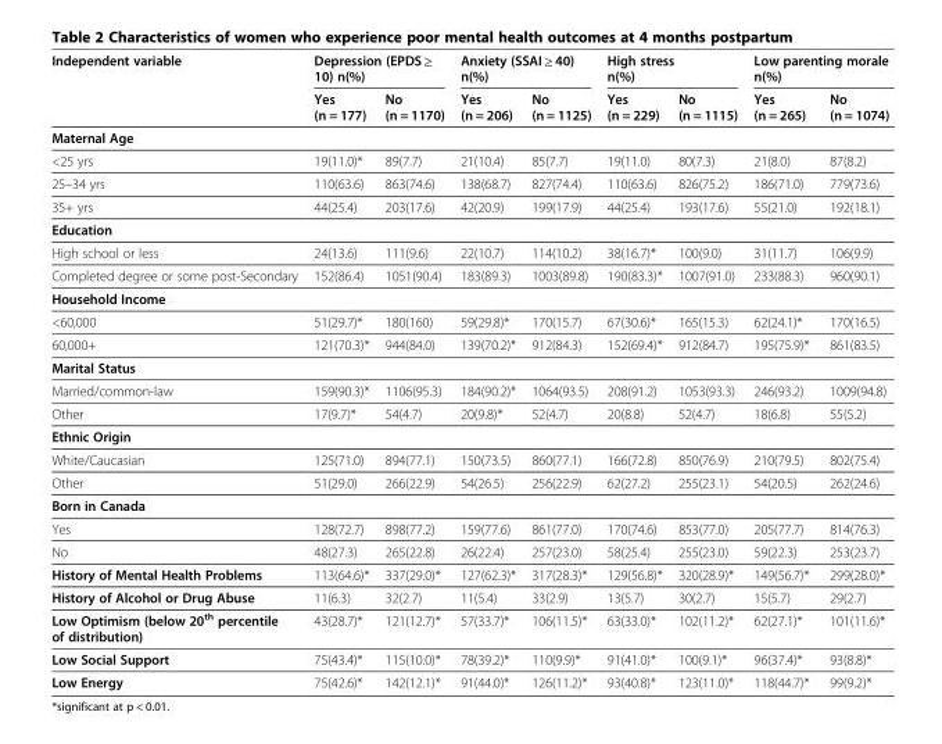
<table><thead><tr><td rowspan="2">Independent variable</td><td colspan="2">Depression (EPDS ≥ 10) n(%)</td><td colspan="2">Anxiety (SSAI ≥ 40) n(%)</td><td colspan="2">High stress n(%)</td><td colspan="2">Low parenting morale n(%)</td></tr><tr><td>Yes (n = 177)</td><td>No (n = 1170)</td><td>Yes (n = 206)</td><td>No (n = 1125)</td><td>Yes (n = 229)</td><td>No (n = 1115)</td><td>Yes (n = 265)</td><td>No (n = 1074)</td></tr></thead><tbody><tr><td colspan="9">Maternal Age</td></tr><tr><td>&lt;25 yrs</td><td>19(11.0)*</td><td>89(7.7)</td><td>21(10.4)</td><td>85(7.7)</td><td>19(11.0)</td><td>80(7.3)</td><td>21(8.0)</td><td>87(8.2)</td></tr><tr><td>25–34 yrs</td><td>110(63.6)</td><td>863(74.6)</td><td>138(68.7)</td><td>827(74.4)</td><td>110(63.6)</td><td>826(75.2)</td><td>186(71.0)</td><td>779(73.6)</td></tr><tr><td>35+ yrs</td><td>44(25.4)</td><td>203(17.6)</td><td>42(20.9)</td><td>199(17.9)</td><td>44(25.4)</td><td>193(17.6)</td><td>55(21.0)</td><td>192(18.1)</td></tr><tr><td colspan="9">Education</td></tr><tr><td>High school or less</td><td>24(13.6)</td><td>111(9.6)</td><td>22(10.7)</td><td>114(10.2)</td><td>38(16.7)*</td><td>100(9.0)</td><td>31(11.7)</td><td>106(9.9)</td></tr><tr><td>Completed degree or some post-Secondary</td><td>152(86.4)</td><td>1051(90.4)</td><td>183(89.3)</td><td>1003(89.8)</td><td>190(83.3)*</td><td>1007(91.0)</td><td>233(88.3)</td><td>960(90.1)</td></tr><tr><td colspan="9">Household Income</td></tr><tr><td>&lt;60,000</td><td>51(29.7)*</td><td>180(160)</td><td>59(29.8)*</td><td>170(15.7)</td><td>67(30.6)*</td><td>165(15.3)</td><td>62(24.1)*</td><td>170(16.5)</td></tr><tr><td>60,000+</td><td>121(70.3)*</td><td>944(84.0)</td><td>139(70.2)*</td><td>912(84.3)</td><td>152(69.4)*</td><td>912(84.7)</td><td>195(75.9)*</td><td>861(83.5)</td></tr><tr><td colspan="9">Marital Status</td></tr><tr><td>Married/common-law</td><td>159(90.3)*</td><td>1106(95.3)</td><td>184(90.2)*</td><td>1064(93.5)</td><td>208(91.2)</td><td>1053(93.3)</td><td>246(93.2)</td><td>1009(94.8)</td></tr><tr><td>Other</td><td>17(9.7)*</td><td>54(4.7)</td><td>20(9.8)*</td><td>52(4.7)</td><td>20(8.8)</td><td>52(4.7)</td><td>18(6.8)</td><td>55(5.2)</td></tr><tr><td colspan="9">Ethnic Origin</td></tr><tr><td>White/Caucasian</td><td>125(71.0)</td><td>894(77.1)</td><td>150(73.5)</td><td>860(77.1)</td><td>166(72.8)</td><td>850(76.9)</td><td>210(79.5)</td><td>802(75.4)</td></tr><tr><td>Other</td><td>51(29.0)</td><td>266(22.9)</td><td>54(26.5)</td><td>256(22.9)</td><td>62(27.2)</td><td>255(23.1)</td><td>54(20.5)</td><td>262(24.6)</td></tr><tr><td colspan="9">Born in Canada</td></tr><tr><td>Yes</td><td>128(72.7)</td><td>898(77.2)</td><td>159(77.6)</td><td>861(77.0)</td><td>170(74.6)</td><td>853(77.0)</td><td>205(77.7)</td><td>814(76.3)</td></tr><tr><td>No</td><td>48(27.3)</td><td>265(22.8)</td><td>26(22.4)</td><td>257(23.0)</td><td>58(25.4)</td><td>255(23.0)</td><td>59(22.3)</td><td>253(23.7)</td></tr><tr><td>History of Mental Health Problems</td><td>113(64.6)*</td><td>337(29.0)*</td><td>127(62.3)*</td><td>317(28.3)*</td><td>129(56.8)*</td><td>320(28.9)*</td><td>149(56.7)*</td><td>299(28.0)*</td></tr><tr><td>History of Alcohol or Drug Abuse</td><td>11(6.3)</td><td>32(2.7)</td><td>11(5.4)</td><td>33(2.9)</td><td>13(5.7)</td><td>30(2.7)</td><td>15(5.7)</td><td>29(2.7)</td></tr><tr><td>Low Optimism (below 20<sup>th</sup> percentile of distribution)</td><td>43(28.7)*</td><td>121(12.7)*</td><td>57(33.7)*</td><td>106(11.5)*</td><td>63(33.0)*</td><td>102(11.2)*</td><td>62(27.1)*</td><td>101(11.6)*</td></tr><tr><td>Low Social Support</td><td>75(43.4)*</td><td>115(10.0)*</td><td>78(39.2)*</td><td>110(9.9)*</td><td>91(41.0)*</td><td>100(9.1)*</td><td>96(37.4)*</td><td>93(8.8)*</td></tr><tr><td>Low Energy</td><td>75(42.6)*</td><td>142(12.1)*</td><td>91(44.0)*</td><td>126(11.2)*</td><td>93(40.8)*</td><td>123(11.0)*</td><td>118(44.7)*</td><td>99(9.2)*</td></tr></tbody></table>